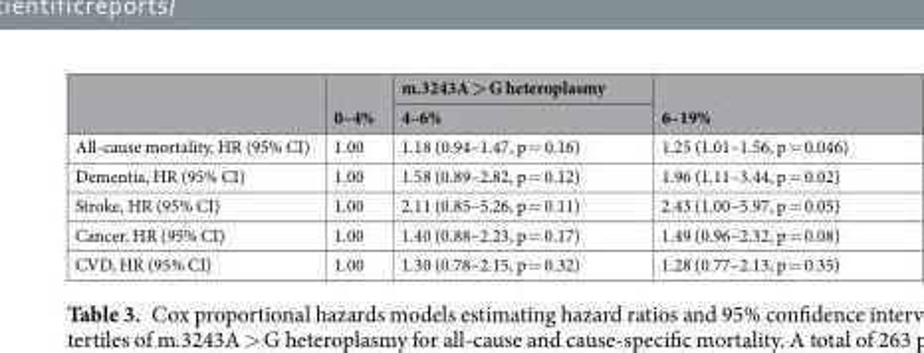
<table><thead><tr><td rowspan="2"></td><td rowspan="2">0–4%</td><td rowspan="2">m.3243A &gt; G heteroplasmy 4–6%</td><td rowspan="2">6–19%</td></tr><tr></tr></thead><tbody><tr><td>All-cause mortality, HR (95% CI)</td><td>1.00</td><td>1.18 (0.94–1.47, p = 0.16)</td><td>1.25 (1.01–1.56, p = 0.046)</td></tr><tr><td>Dementia, HR (95% CI)</td><td>1.00</td><td>1.58 (0.89–2.82, p = 0.12)</td><td>1.96 (1.11–3.44, p = 0.02)</td></tr><tr><td>Stroke, HR (95% CI)</td><td>1.00</td><td>2.11 (0.85–5.26, p = 0.11)</td><td>2.43 (1.00–5.97, p = 0.05)</td></tr><tr><td>Cancer, HR (95% CI)</td><td>1.00</td><td>1.40 (0.88–2.23, p = 0.17)</td><td>1.49 (0.96–2.32, p = 0.08)</td></tr><tr><td>CVD, HR (95% CI)</td><td>1.00</td><td>1.30 (0.78–2.15, p = 0.32)</td><td>1.28 (0.77–2.13, p = 0.35)</td></tr></tbody></table>